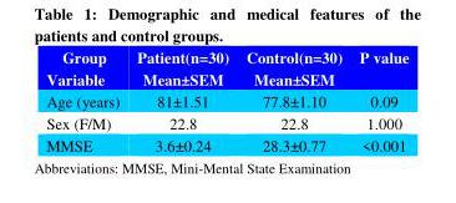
<table><thead><tr><td>Group Variable</td><td>Patient(n=30) Mean±SEM</td><td>Control(n=30) Mean±SEM</td><td>P value</td></tr></thead><tbody><tr><td>Age (years)</td><td>81±1.51</td><td>77.8±1.10</td><td>0.09</td></tr><tr><td>Sex (F/M)</td><td>22.8</td><td>22.8</td><td>1.000</td></tr><tr><td>MMSE</td><td>3.6±0.24</td><td>28.3±0.77</td><td>&lt;0.001</td></tr></tbody></table>